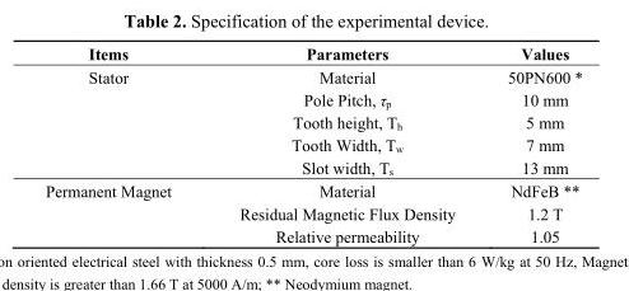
<table><thead><tr><td>Items</td><td>Parameters</td><td>Values</td></tr></thead><tbody><tr><td rowspan="5">Stator</td><td>Material</td><td>50PN600 *</td></tr><tr><td>Pole Pitch, τ<sub>p</sub></td><td>10 mm</td></tr><tr><td>Tooth height, T<sub>h</sub></td><td>5 mm</td></tr><tr><td>Tooth Width, T<sub>w</sub></td><td>7 mm</td></tr><tr><td>Slot width, T<sub>s</sub></td><td>13 mm</td></tr><tr><td rowspan="3">Permanent Magnet</td><td>Material</td><td>NdFeB **</td></tr><tr><td>Residual Magnetic Flux Density</td><td>1.2 T</td></tr><tr><td>Relative permeability</td><td>1.05</td></tr></tbody></table>